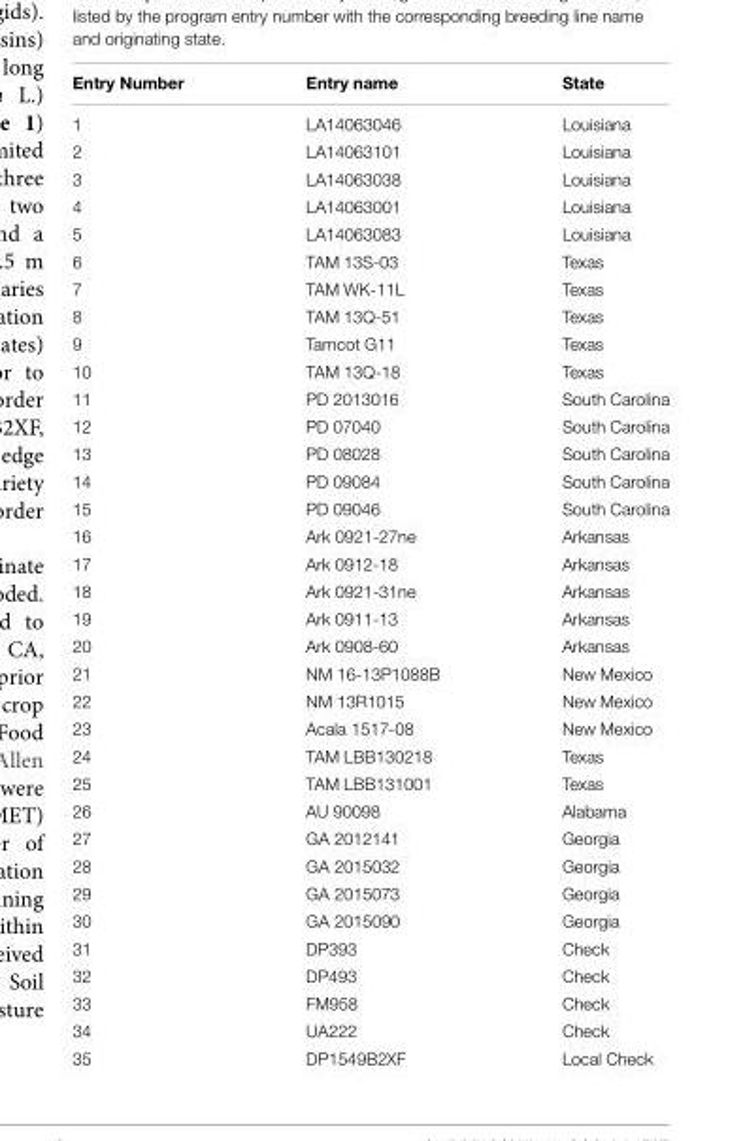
<table><thead><tr><td>Entry Number</td><td>Entry name</td><td>State</td></tr></thead><tbody><tr><td>1</td><td>LA14063046</td><td>Louisiana</td></tr><tr><td>2</td><td>LA14063101</td><td>Louisiana</td></tr><tr><td>3</td><td>LA14063038</td><td>Louisiana</td></tr><tr><td>4</td><td>LA14063001</td><td>Louisiana</td></tr><tr><td>5</td><td>LA14063083</td><td>Louisiana</td></tr><tr><td>6</td><td>TAM 13S-03</td><td>Texas</td></tr><tr><td>7</td><td>TAM WK-11L</td><td>Texas</td></tr><tr><td>8</td><td>TAM 13Q-51</td><td>Texas</td></tr><tr><td>9</td><td>Tamcot G11</td><td>Texas</td></tr><tr><td>10</td><td>TAM 13Q-18</td><td>Texas</td></tr><tr><td>11</td><td>PD 2013016</td><td>South Carolina</td></tr><tr><td>12</td><td>PD 07040</td><td>South Carolina</td></tr><tr><td>13</td><td>PD 08028</td><td>South Carolina</td></tr><tr><td>14</td><td>PD 09084</td><td>South Carolina</td></tr><tr><td>15</td><td>PD 09046</td><td>South Carolina</td></tr><tr><td>16</td><td>Ark 0921-27ne</td><td>Arkansas</td></tr><tr><td>17</td><td>Ark 0912-18</td><td>Arkansas</td></tr><tr><td>18</td><td>Ark 0921-31ne</td><td>Arkansas</td></tr><tr><td>19</td><td>Ark 0911-13</td><td>Arkansas</td></tr><tr><td>20</td><td>Ark 0908-60</td><td>Arkansas</td></tr><tr><td>21</td><td>NM 16-13P1088B</td><td>New Mexico</td></tr><tr><td>22</td><td>NM 13R1015</td><td>New Mexico</td></tr><tr><td>23</td><td>Acala 1517-08</td><td>New Mexico</td></tr><tr><td>24</td><td>TAM LBB130218</td><td>Texas</td></tr><tr><td>25</td><td>TAM LBB131001</td><td>Texas</td></tr><tr><td>26</td><td>AU 90098</td><td>Alabama</td></tr><tr><td>27</td><td>GA 2012141</td><td>Georgia</td></tr><tr><td>28</td><td>GA 2015032</td><td>Georgia</td></tr><tr><td>29</td><td>GA 2015073</td><td>Georgia</td></tr><tr><td>30</td><td>GA 2015090</td><td>Georgia</td></tr><tr><td>31</td><td>DP393</td><td>Check</td></tr><tr><td>32</td><td>DP493</td><td>Check</td></tr><tr><td>33</td><td>FM958</td><td>Check</td></tr><tr><td>34</td><td>UA222</td><td>Check</td></tr><tr><td>35</td><td>DP1549B2XF</td><td>Local Check</td></tr></tbody></table>